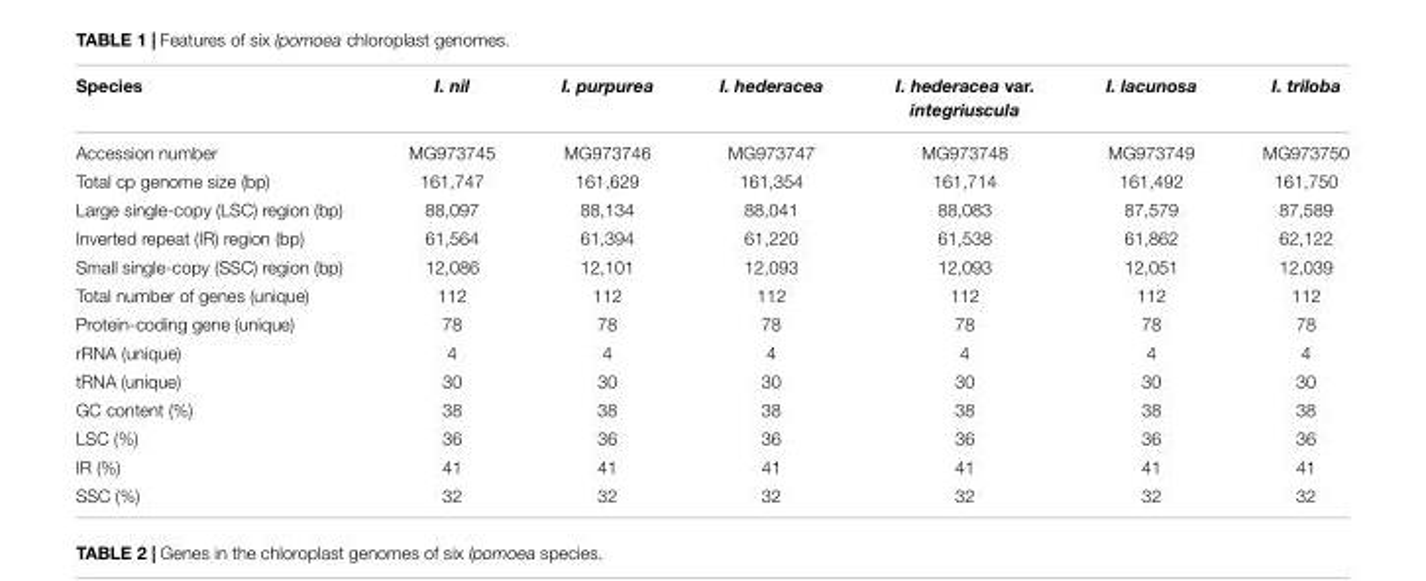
<table><thead><tr><td>Species</td><td>I. nil</td><td>I. purpurea</td><td>I. hederacea</td><td>I. hederacea var. integriuscula</td><td>I. lacunosa</td><td>I. triloba</td></tr></thead><tbody><tr><td>Accession number</td><td>MG973745</td><td>MG973746</td><td>MG973747</td><td>MG973748</td><td>MG973749</td><td>MG973750</td></tr><tr><td>Total cp genome size (bp)</td><td>161,747</td><td>161,629</td><td>161,354</td><td>161,714</td><td>161,492</td><td>161,750</td></tr><tr><td>Large single-copy (LSC) region (bp)</td><td>88,097</td><td>88,134</td><td>88,041</td><td>88,083</td><td>87,579</td><td>87,589</td></tr><tr><td>Inverted repeat (IR) region (bp)</td><td>61,564</td><td>61,394</td><td>61,220</td><td>61,538</td><td>61,862</td><td>62,122</td></tr><tr><td>Small single-copy (SSC) region (bp)</td><td>12,086</td><td>12,101</td><td>12,093</td><td>12,093</td><td>12,051</td><td>12,039</td></tr><tr><td>Total number of genes (unique)</td><td>112</td><td>112</td><td>112</td><td>112</td><td>112</td><td>112</td></tr><tr><td>Protein-coding gene (unique)</td><td>78</td><td>78</td><td>78</td><td>78</td><td>78</td><td>78</td></tr><tr><td>rRNA (unique)</td><td>4</td><td>4</td><td>4</td><td>4</td><td>4</td><td>4</td></tr><tr><td>tRNA (unique)</td><td>30</td><td>30</td><td>30</td><td>30</td><td>30</td><td>30</td></tr><tr><td>GC content (%)</td><td>38</td><td>38</td><td>38</td><td>38</td><td>38</td><td>38</td></tr><tr><td>LSC (%)</td><td>36</td><td>36</td><td>36</td><td>36</td><td>36</td><td>36</td></tr><tr><td>IR (%)</td><td>41</td><td>41</td><td>41</td><td>41</td><td>41</td><td>41</td></tr><tr><td>SSC (%)</td><td>32</td><td>32</td><td>32</td><td>32</td><td>32</td><td>32</td></tr></tbody></table>